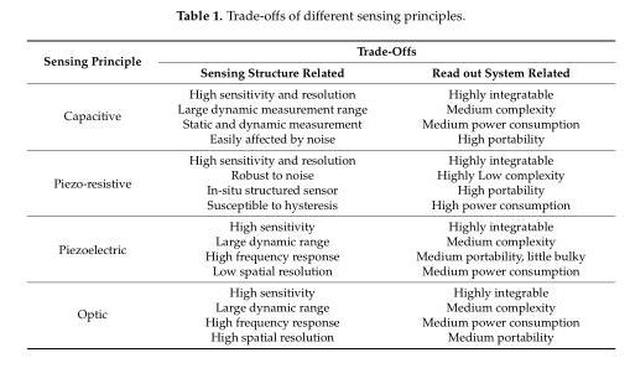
<table><thead><tr><td rowspan="2">Sensing Principle</td><td colspan="2">Trade-Offs</td></tr><tr><td>Sensing Structure Related</td><td>Read out System Related</td></tr></thead><tbody><tr><td rowspan="4">Capacitive</td><td>High sensitivity and resolution</td><td>Highly integratable</td></tr><tr><td>Large dynamic measurement range</td><td>Medium complexity</td></tr><tr><td>Static and dynamic measurement</td><td>Medium power consumption</td></tr><tr><td>Easily affected by noise</td><td>High portability</td></tr><tr><td rowspan="4">Piezo-resistive</td><td>High sensitivity and resolution</td><td>Highly integratable</td></tr><tr><td>Robust to noise</td><td>Highly Low complexity</td></tr><tr><td>In-situ structured sensor</td><td>High portability</td></tr><tr><td>Susceptible to hysteresis</td><td>High power consumption</td></tr><tr><td rowspan="4">Piezoelectric</td><td>High sensitivity</td><td>Highly integratable</td></tr><tr><td>Large dynamic range</td><td>Medium complexity</td></tr><tr><td>High frequency response</td><td>Medium portability, little bulky</td></tr><tr><td>Low spatial resolution</td><td>Medium power consumption</td></tr><tr><td rowspan="4">Optic</td><td>High sensitivity</td><td>Highly integrable</td></tr><tr><td>Large dynamic range</td><td>Medium complexity</td></tr><tr><td>High frequency response</td><td>Medium power consumption</td></tr><tr><td>High spatial resolution</td><td>Medium portability</td></tr></tbody></table>